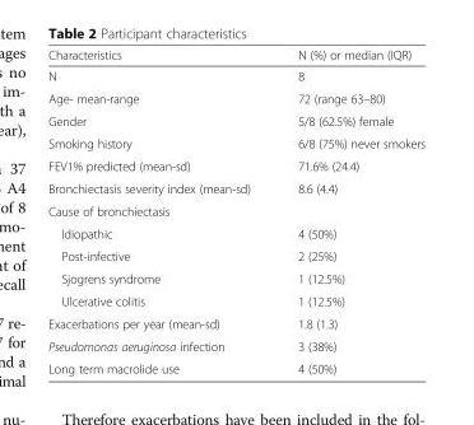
<table><thead><tr><td>Characteristics</td><td>N (%) or median (IQR)</td></tr></thead><tbody><tr><td>N</td><td>8</td></tr><tr><td>Age- mean-range</td><td>72 (range 63–80)</td></tr><tr><td>Gender</td><td>5/8 (62.5%) female</td></tr><tr><td>Smoking history</td><td>6/8 (75%) never smokers</td></tr><tr><td>FEV1% predicted (mean-sd)</td><td>71.6% (24.4)</td></tr><tr><td>Bronchiectasis severity index (mean-sd)</td><td>8.6 (4.4)</td></tr><tr><td colspan="2">Cause of bronchiectasis</td></tr><tr><td>Idiopathic</td><td>4 (50%)</td></tr><tr><td>Post-infective</td><td>2 (25%)</td></tr><tr><td>Sjogrens syndrome</td><td>1 (12.5%)</td></tr><tr><td>Ulcerative colitis</td><td>1 (12.5%)</td></tr><tr><td>Exacerbations per year (mean-sd)</td><td>1.8 (1.3)</td></tr><tr><td>Pseudomonas aeruginosa infection</td><td>3 (38%)</td></tr><tr><td>Long term macrolide use</td><td>4 (50%)</td></tr></tbody></table>